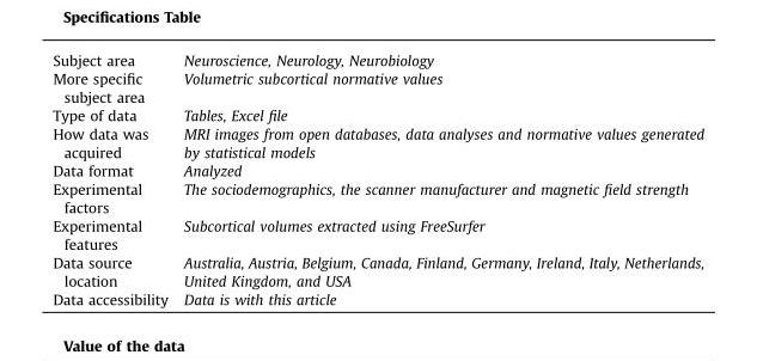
<table><tbody><tr><td>Subject area</td><td>Neuroscience, Neurology, Neurobiology</td></tr><tr><td>More specific subject area</td><td>Volumetric subcortical normative values</td></tr><tr><td>Type of data</td><td>Tables, Excel file</td></tr><tr><td>How data was acquired</td><td>MRI images from open databases, data analyses and normative values generated by statistical models</td></tr><tr><td>Data format</td><td>Analyzed</td></tr><tr><td>Experimental factors</td><td>The sociodemographics, the scanner manufacturer and magnetic field strength</td></tr><tr><td>Experimental features</td><td>Subcortical volumes extracted using FreeSurfer</td></tr><tr><td>Data source location</td><td>Australia, Austria, Belgium, Canada, Finland, Germany, Ireland, Italy, Netherlands, United Kingdom, and USA</td></tr><tr><td>Data accessibility</td><td>Data is with this article</td></tr></tbody></table>